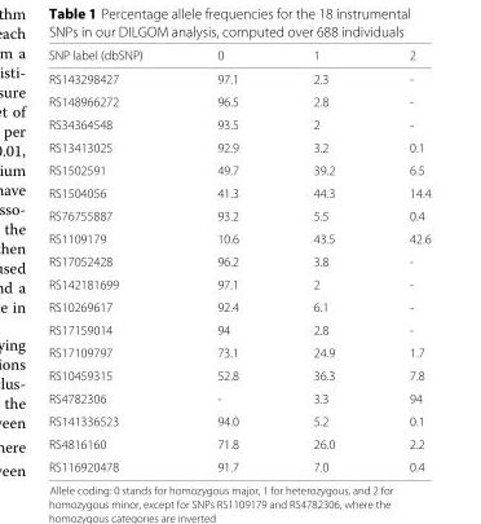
<table><thead><tr><td>SNP label (dbSNP)</td><td>0</td><td>1</td><td>2</td></tr></thead><tbody><tr><td>RS143298427</td><td>97.1</td><td>2.3</td><td>-</td></tr><tr><td>RS148966272</td><td>96.5</td><td>2.8</td><td>-</td></tr><tr><td>RS34364548</td><td>93.5</td><td>2</td><td>-</td></tr><tr><td>RS13413025</td><td>92.9</td><td>3.2</td><td>0.1</td></tr><tr><td>RS1502591</td><td>49.7</td><td>39.2</td><td>6.5</td></tr><tr><td>RS1504056</td><td>41.3</td><td>44.3</td><td>14.4</td></tr><tr><td>RS76755887</td><td>93.2</td><td>5.5</td><td>0.4</td></tr><tr><td>RS1109179</td><td>10.6</td><td>43.5</td><td>42.6</td></tr><tr><td>RS17052428</td><td>96.2</td><td>3.8</td><td>-</td></tr><tr><td>RS142181699</td><td>97.1</td><td>2</td><td>-</td></tr><tr><td>RS10269617</td><td>92.4</td><td>6.1</td><td>-</td></tr><tr><td>RS17159014</td><td>94</td><td>2.8</td><td>-</td></tr><tr><td>RS17109797</td><td>73.1</td><td>24.9</td><td>1.7</td></tr><tr><td>RS10459315</td><td>52.8</td><td>36.3</td><td>7.8</td></tr><tr><td>RS4782306</td><td>-</td><td>3.3</td><td>94</td></tr><tr><td>RS141336523</td><td>94.0</td><td>5.2</td><td>0.1</td></tr><tr><td>RS4816160</td><td>71.8</td><td>26.0</td><td>2.2</td></tr><tr><td>RS116920478</td><td>91.7</td><td>7.0</td><td>0.4</td></tr></tbody></table>